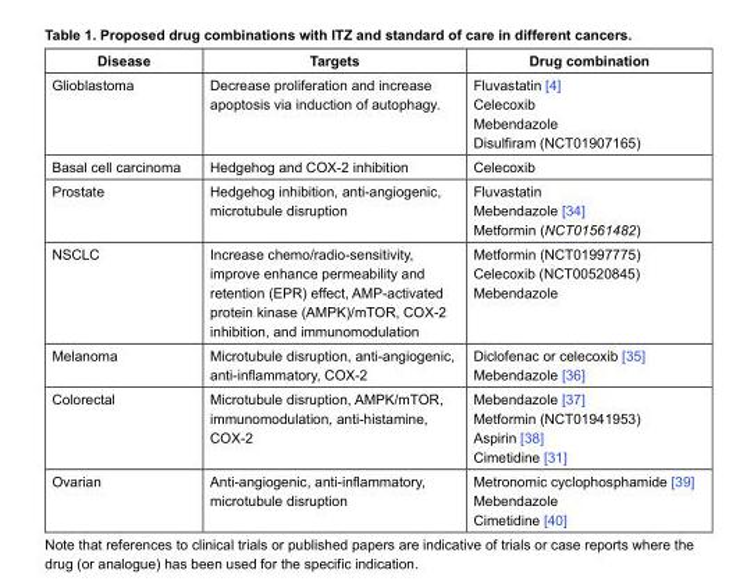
<table><thead><tr><td>Disease</td><td>Targets</td><td>Drug combination</td></tr></thead><tbody><tr><td rowspan="4">Glioblastoma</td><td rowspan="4">Decrease proliferation and increase apoptosis via induction of autophagy.</td><td>Fluvastatin [4]</td></tr><tr><td>Celecoxib</td></tr><tr><td>Mebendazole</td></tr><tr><td>Disulfiram (NCT01907165)</td></tr><tr><td>Basal cell carcinoma</td><td>Hedgehog and COX-2 inhibition</td><td>Celecoxib</td></tr><tr><td rowspan="3">Prostate</td><td rowspan="3">Hedgehog inhibition, anti-angiogenic, microtubule disruption</td><td>Fluvastatin</td></tr><tr><td>Mebendazole [34]</td></tr><tr><td>Metformin (NCT01561482)</td></tr><tr><td rowspan="3">NSCLC</td><td rowspan="3">Increase chemo/radio-sensitivity, improve enhance permeability and retention (EPR) effect, AMP-activated protein kinase (AMPK)/mTOR, COX-2 inhibition, and immunomodulation</td><td>Metformin (NCT01997775)</td></tr><tr><td>Celecoxib (NCT00520845)</td></tr><tr><td>Mebendazole</td></tr><tr><td rowspan="2">Melanoma</td><td rowspan="2">Microtubule disruption, anti-angiogenic, anti-inflammatory, COX-2</td><td>Diclofenac or celecoxib [35]</td></tr><tr><td>Mebendazole [36]</td></tr><tr><td rowspan="4">Colorectal</td><td rowspan="4">Microtubule disruption, AMPK/mTOR, immunomodulation, anti-histamine, COX-2</td><td>Mebendazole [37]</td></tr><tr><td>Metformin (NCT01941953)</td></tr><tr><td>Aspirin [38]</td></tr><tr><td>Cimetidine [31]</td></tr><tr><td rowspan="3">Ovarian</td><td rowspan="3">Anti-angiogenic, anti-inflammatory, microtubule disruption</td><td>Metronomic cyclophosphamide [39]</td></tr><tr><td>Mebendazole</td></tr><tr><td>Cimetidine [40]</td></tr></tbody></table>